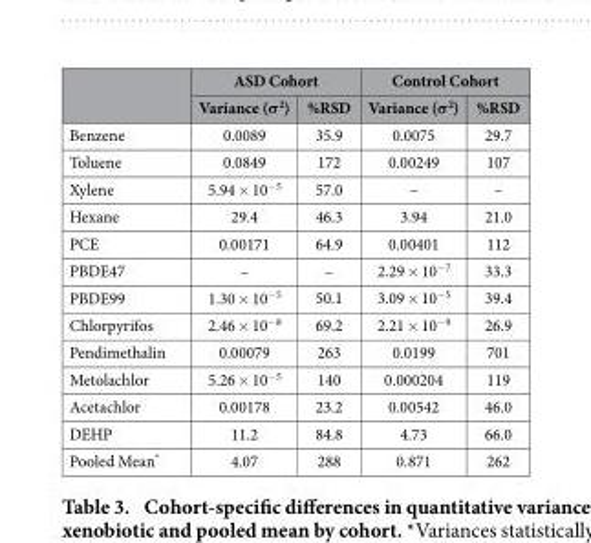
<table><thead><tr><td rowspan="2"></td><td colspan="2">ASD Cohort</td><td colspan="2">Control Cohort</td></tr><tr><td>Variance (σ<sup>2</sup>)</td><td>%RSD</td><td>Variance (σ<sup>2</sup>)</td><td>%RSD</td></tr></thead><tbody><tr><td>Benzene</td><td>0.0089</td><td>35.9</td><td>0.0075</td><td>29.7</td></tr><tr><td>Toluene</td><td>0.0849</td><td>172</td><td>0.00249</td><td>107</td></tr><tr><td>Xylene</td><td>5.94 × 10<sup>−5</sup></td><td>57.0</td><td>–</td><td>–</td></tr><tr><td>Hexane</td><td>29.4</td><td>46.3</td><td>3.94</td><td>21.0</td></tr><tr><td>PCE</td><td>0.00171</td><td>64.9</td><td>0.00401</td><td>112</td></tr><tr><td>PBDE47</td><td>–</td><td>–</td><td>2.29 × 10<sup>−7</sup></td><td>33.3</td></tr><tr><td>PBDE99</td><td>1.30 × 10<sup>−5</sup></td><td>50.1</td><td>3.09 × 10<sup>−5</sup></td><td>39.4</td></tr><tr><td>Chlorpyrifos</td><td>2.46 × 10<sup>−8</sup></td><td>69.2</td><td>2.21 × 10<sup>−9</sup></td><td>26.9</td></tr><tr><td>Pendimethalin</td><td>0.00079</td><td>263</td><td>0.0199</td><td>701</td></tr><tr><td>Metolachlor</td><td>5.26 × 10<sup>−5</sup></td><td>140</td><td>0.000204</td><td>119</td></tr><tr><td>Acetachlor</td><td>0.00178</td><td>23.2</td><td>0.00542</td><td>46.0</td></tr><tr><td>DEHP</td><td>11.2</td><td>84.8</td><td>4.73</td><td>66.0</td></tr><tr><td>Pooled Mean*</td><td>4.07</td><td>288</td><td>0.871</td><td>262</td></tr></tbody></table>